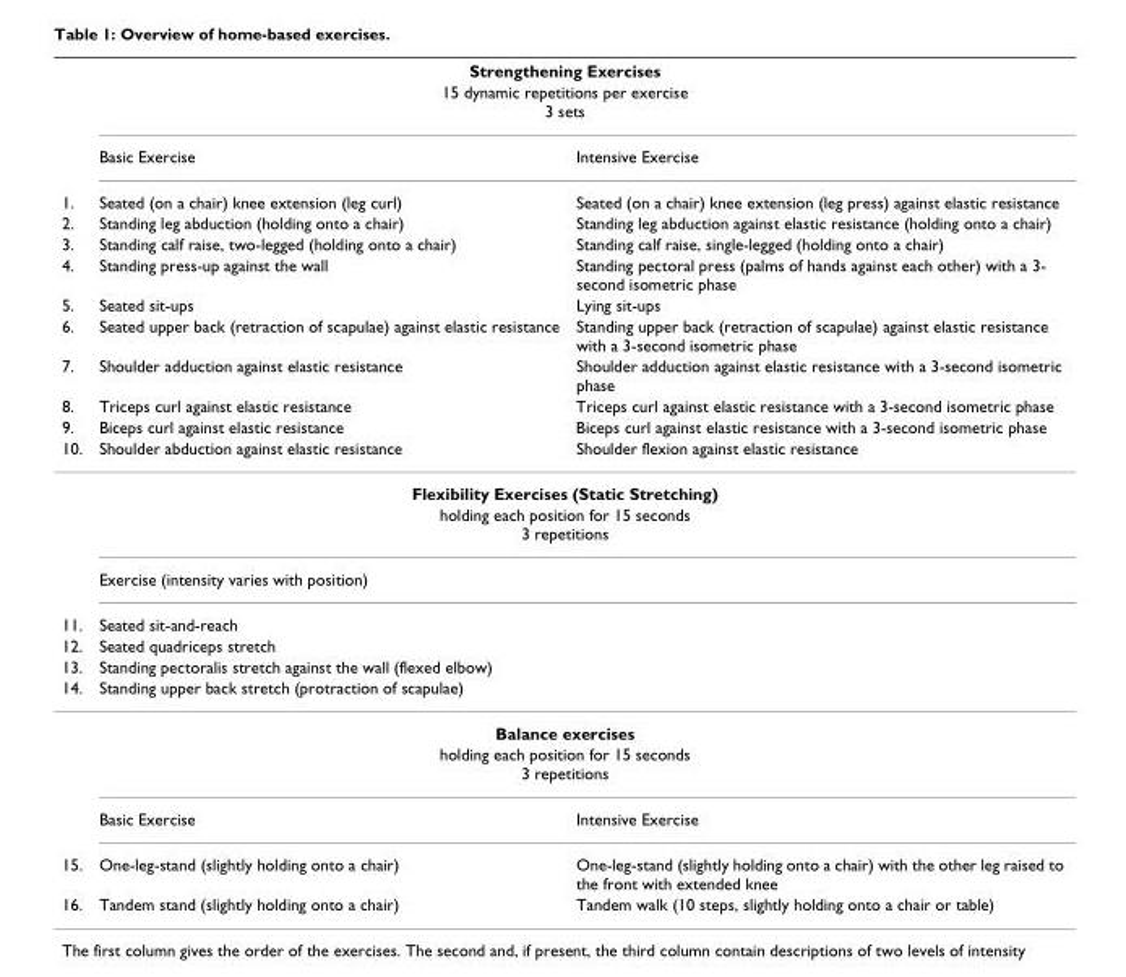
<table><thead><tr><td rowspan="2" colspan="3">Strengthening Exercises 15 dynamic repetitions per exercise 3 sets</td></tr><tr></tr><tr><td rowspan="11">1. 2. 3. 4. 5. 6. 7. 8. 9. 10.</td><td rowspan="11">Basic Exercise Seated (on a chair) knee extension (leg curl) Standing leg abduction (holding onto a chair) Standing calf raise, two-legged (holding onto a chair) Standing press-up against the wall Seated sit-ups Seated upper back (retraction of scapulae) against elastic resistance Shoulder adduction against elastic resistance Triceps curl against elastic resistance Biceps curl against elastic resistance Shoulder abduction against elastic resistance</td><td rowspan="11">Intensive Exercise Seated (on a chair) knee extension (leg press) against elastic resistance Standing leg abduction against elastic resistance (holding onto a chair) Standing calf raise, single-legged (holding onto a chair) Standing pectoral press (palms of hands against each other) with a 3- second isometric phase Lying sit-ups Standing upper back (retraction of scapulae) against elastic resistance with a 3-second isometric phase Shoulder adduction against elastic resistance with a 3-second isometric phase Triceps curl against elastic resistance with a 3-second isometric phase Biceps curl against elastic resistance with a 3-second isometric phase Shoulder flexion against elastic resistance</td></tr><tr></tr><tr></tr><tr></tr><tr></tr><tr></tr><tr></tr><tr></tr><tr></tr><tr></tr><tr></tr></thead><tbody><tr><td colspan="3">Flexibility Exercises (Static Stretching)</td></tr><tr><td colspan="3">holding each position for 15 seconds 3 repetitions</td></tr><tr><td></td><td colspan="2">Exercise (intensity varies with position)</td></tr><tr><td>11.</td><td colspan="2">Seated sit-and-reach</td></tr><tr><td>12.</td><td colspan="2">Seated quadriceps stretch</td></tr><tr><td>13.</td><td colspan="2">Standing pectoralis stretch against the wall (flexed elbow)</td></tr><tr><td>14.</td><td colspan="2">Standing upper back stretch (protraction of scapulae)</td></tr><tr><td colspan="3">Balance exercises</td></tr><tr><td colspan="3">holding each position for 15 seconds 3 repetitions</td></tr><tr><td></td><td>Basic Exercise</td><td>Intensive Exercise</td></tr><tr><td>15.</td><td>One-leg-stand (slightly holding onto a chair)</td><td>One-leg-stand (slightly holding onto a chair) with the other leg raised to the front with extended knee</td></tr><tr><td>16.</td><td>Tandem stand (slightly holding onto a chair)</td><td>Tandem walk (10 steps, slightly holding onto a chair or table)</td></tr></tbody></table>